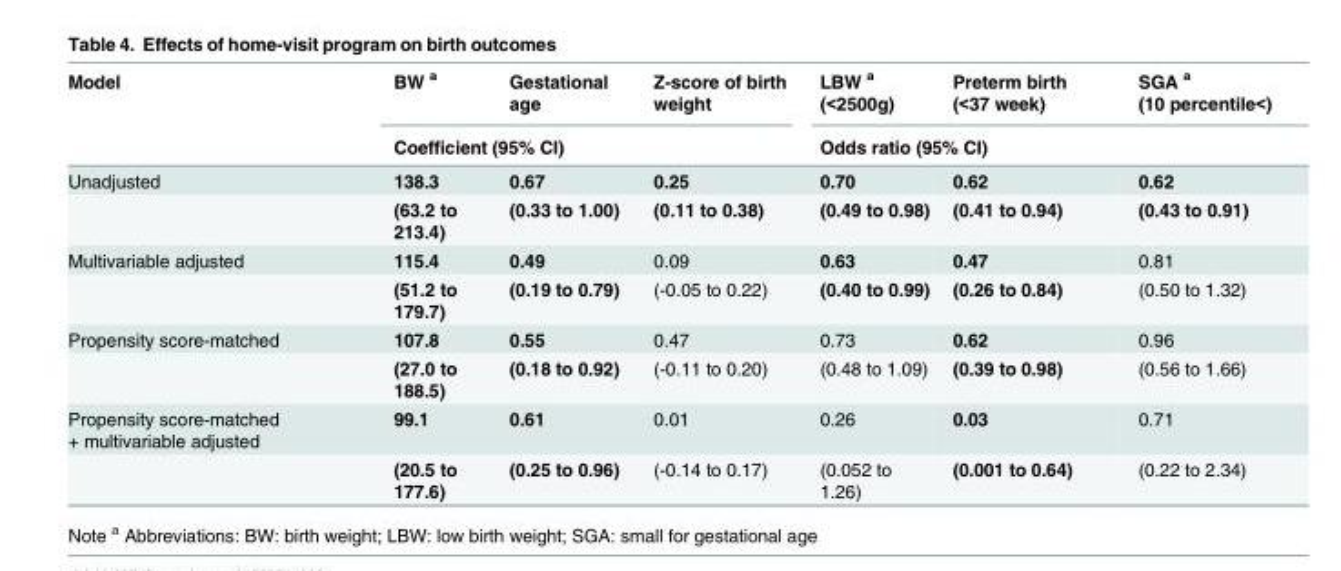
<table><thead><tr><td rowspan="2">Model</td><td>BW <sup>a</sup></td><td>Gestational age</td><td>Z-score of birth weight</td><td>LBW <sup>a</sup> (&lt;2500g)</td><td>Preterm birth (&lt;37 week)</td><td>SGA <sup>a</sup> (10 percentile&lt;)</td></tr><tr><td colspan="3">Coefficient (95% CI)</td><td colspan="3">Odds ratio (95% CI)</td></tr></thead><tbody><tr><td rowspan="2">Unadjusted</td><td>138.3</td><td>0.67</td><td>0.25</td><td>0.70</td><td>0.62</td><td>0.62</td></tr><tr><td>(63.2 to 213.4)</td><td>(0.33 to 1.00)</td><td>(0.11 to 0.38)</td><td>(0.49 to 0.98)</td><td>(0.41 to 0.94)</td><td>(0.43 to 0.91)</td></tr><tr><td rowspan="2">Multivariable adjusted</td><td>115.4</td><td>0.49</td><td>0.09</td><td>0.63</td><td>0.47</td><td>0.81</td></tr><tr><td>(51.2 to 179.7)</td><td>(0.19 to 0.79)</td><td>(-0.05 to 0.22)</td><td>(0.40 to 0.99)</td><td>(0.26 to 0.84)</td><td>(0.50 to 1.32)</td></tr><tr><td rowspan="2">Propensity score-matched</td><td>107.8</td><td>0.55</td><td>0.47</td><td>0.73</td><td>0.62</td><td>0.96</td></tr><tr><td>(27.0 to 188.5)</td><td>(0.18 to 0.92)</td><td>(-0.11 to 0.20)</td><td>(0.48 to 1.09)</td><td>(0.39 to 0.98)</td><td>(0.56 to 1.66)</td></tr><tr><td rowspan="2">Propensity score-matched + multivariable adjusted</td><td>99.1</td><td>0.61</td><td>0.01</td><td>0.26</td><td>0.03</td><td>0.71</td></tr><tr><td>(20.5 to 177.6)</td><td>(0.25 to 0.96)</td><td>(-0.14 to 0.17)</td><td>(0.052 to 1.26)</td><td>(0.001 to 0.64)</td><td>(0.22 to 2.34)</td></tr></tbody></table>